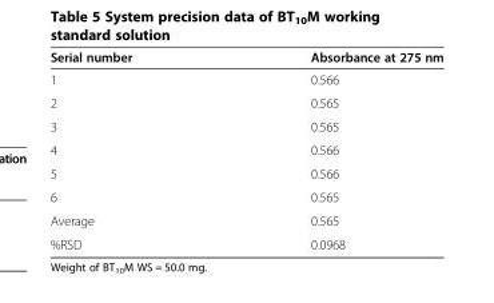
<table><thead><tr><td>Serial number</td><td>Absorbance at 275 nm</td></tr></thead><tbody><tr><td>1</td><td>0.566</td></tr><tr><td>2</td><td>0.565</td></tr><tr><td>3</td><td>0.565</td></tr><tr><td>4</td><td>0.566</td></tr><tr><td>5</td><td>0.566</td></tr><tr><td>6</td><td>0.565</td></tr><tr><td>Average</td><td>0.565</td></tr><tr><td>%RSD</td><td>0.0968</td></tr></tbody></table>